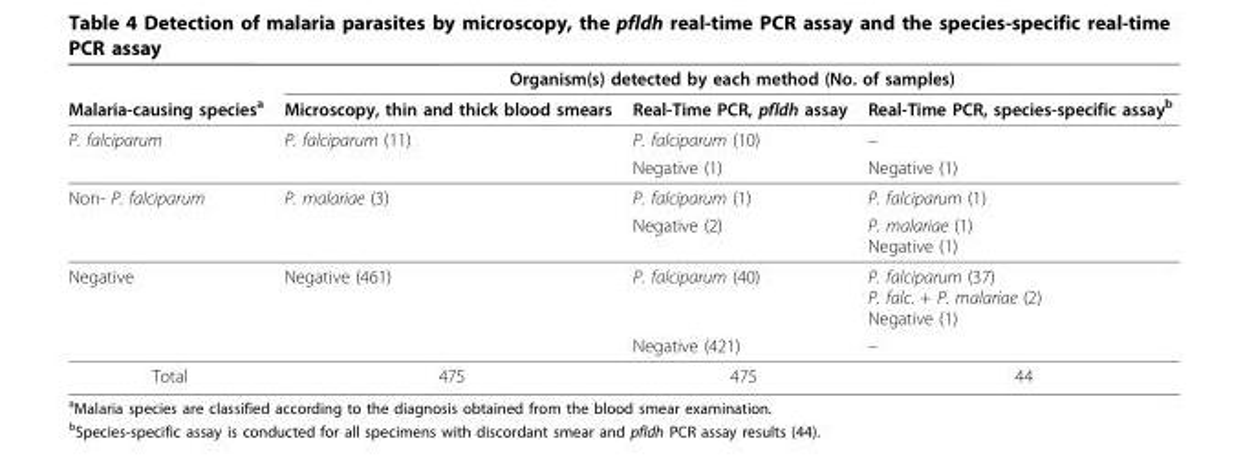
<table><thead><tr><td rowspan="2">Malaria-causing species<sup>a</sup></td><td colspan="3">Organism(s) detected by each method (No. of samples)</td></tr><tr><td>Microscopy, thin and thick blood smears</td><td>Real-Time PCR, pfldh assay</td><td>Real-Time PCR, species-specific assay<sup>b</sup></td></tr></thead><tbody><tr><td rowspan="2">P. falciparum</td><td>P. falciparum (11)</td><td>P. falciparum (10)</td><td>–</td></tr><tr><td></td><td>Negative (1)</td><td>Negative (1)</td></tr><tr><td rowspan="2">Non- P. falciparum</td><td>P. malariae (3)</td><td>P. falciparum (1)</td><td>P. falciparum (1)</td></tr><tr><td></td><td>Negative (2)</td><td>P. malariae (1) Negative (1)</td></tr><tr><td rowspan="2">Negative</td><td>Negative (461)</td><td>P. falciparum (40)</td><td>P. falciparum (37) P. falc. + P. malariae (2) Negative (1)</td></tr><tr><td></td><td>Negative (421)</td><td>–</td></tr><tr><td>Total</td><td>475</td><td>475</td><td>44</td></tr></tbody></table>